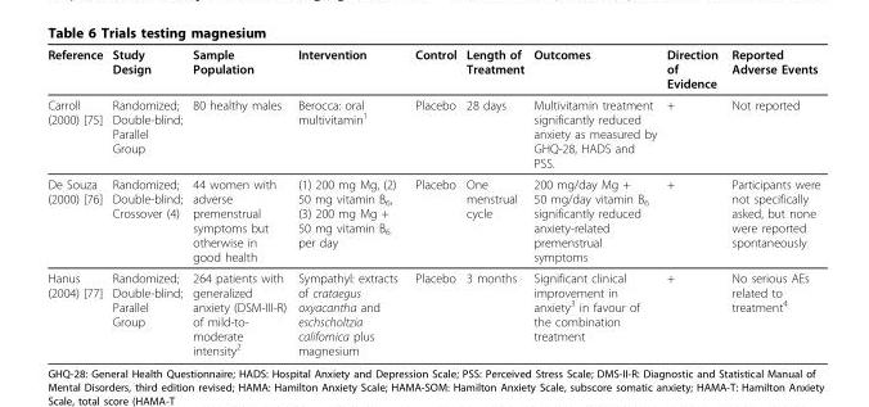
<table><thead><tr><td>Reference</td><td>Study Design</td><td>Sample Population</td><td>Intervention</td><td>Control</td><td>Length of Treatment</td><td>Outcomes</td><td>Direction of Evidence</td><td>Reported Adverse Events</td></tr></thead><tbody><tr><td>Carroll (2000) [75]</td><td>Randomized; Double-blind; Parallel Group</td><td>80 healthy males</td><td>Berocca: oral multivitamin<sup>1</sup></td><td>Placebo</td><td>28 days</td><td>Multivitamin treatment significantly reduced anxiety as measured by GHQ-28, HADS and PSS.</td><td>+</td><td>Not reported</td></tr><tr><td>De Souza (2000) [76]</td><td>Randomized; Double-blind; Crossover (4)</td><td>44 women with adverse premenstrual symptoms but otherwise in good health</td><td>(1) 200 mg Mg, (2) 50 mg vitamin B<sub>6</sub>, (3) 200 mg Mg + 50 mg vitamin B<sub>6</sub> per day</td><td>Placebo</td><td>One menstrual cycle</td><td>200 mg/day Mg + 50 mg/day vitamin B<sub>6</sub> significantly reduced anxiety-related premenstrual symptoms</td><td>+</td><td>Participants were not specifically asked, but none were reported spontaneously</td></tr><tr><td>Hanus (2004) [77]</td><td>Randomized; Double-blind; Parallel Group</td><td>264 patients with generalized anxiety (DSM-III-R) of mild-to- moderate intensity<sup>2</sup></td><td>Sympathyl: extracts of crataegus oxyacantha and eschscholtzia californica plus magnesium</td><td>Placebo</td><td>3 months</td><td>Significant clinical improvement in anxiety<sup>3</sup> in favour of the combination treatment</td><td>+</td><td>No serious AEs related to treatment<sup>4</sup></td></tr></tbody></table>